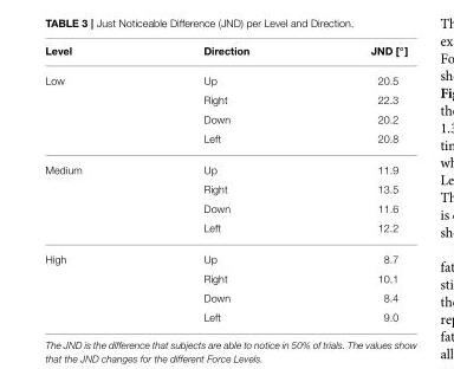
<table><thead><tr><td>Level</td><td>Direction</td><td>JND [◦]</td></tr></thead><tbody><tr><td rowspan="4">Low</td><td>Up</td><td>20.5</td></tr><tr><td>Right</td><td>22.3</td></tr><tr><td>Down</td><td>20.2</td></tr><tr><td>Left</td><td>20.8</td></tr><tr><td rowspan="4">Medium</td><td>Up</td><td>11.9</td></tr><tr><td>Right</td><td>13.5</td></tr><tr><td>Down</td><td>11.6</td></tr><tr><td>Left</td><td>12.2</td></tr><tr><td rowspan="4">High</td><td>Up</td><td>8.7</td></tr><tr><td>Right</td><td>10.1</td></tr><tr><td>Down</td><td>8.4</td></tr><tr><td>Left</td><td>9.0</td></tr></tbody></table>